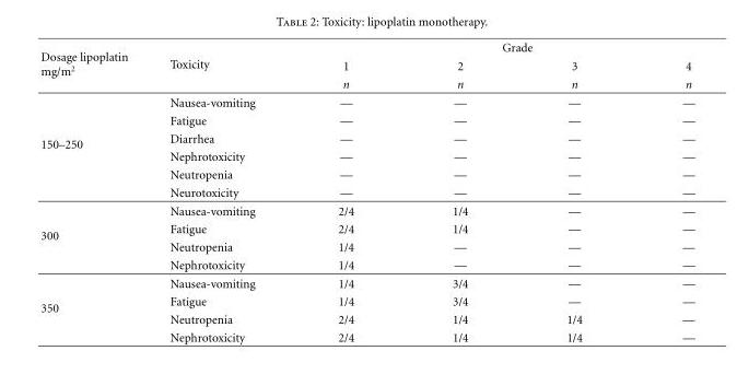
<table><thead><tr><td rowspan="3">Dosage lipoplatin mg/m<sup>2</sup></td><td rowspan="3">Toxicity</td><td colspan="4">Grade</td></tr><tr><td rowspan="2">1 n</td><td rowspan="2">2 n</td><td rowspan="2">3 n</td><td rowspan="2">4 n</td></tr><tr></tr></thead><tbody><tr><td rowspan="6">150–250</td><td>Nausea-vomiting</td><td>—</td><td>—</td><td>—</td><td>—</td></tr><tr><td>Fatigue</td><td>—</td><td>—</td><td>—</td><td>—</td></tr><tr><td>Diarrhea</td><td>—</td><td>—</td><td>—</td><td>—</td></tr><tr><td>Nephrotoxicity</td><td>—</td><td>—</td><td>—</td><td>—</td></tr><tr><td>Neutropenia</td><td>—</td><td>—</td><td>—</td><td>—</td></tr><tr><td>Neurotoxicity</td><td>—</td><td>—</td><td>—</td><td>—</td></tr><tr><td rowspan="4">300</td><td>Nausea-vomiting</td><td>2/4</td><td>1/4</td><td>—</td><td>—</td></tr><tr><td>Fatigue</td><td>2/4</td><td>1/4</td><td>—</td><td>—</td></tr><tr><td>Neutropenia</td><td>1/4</td><td>—</td><td>—</td><td>—</td></tr><tr><td>Nephrotoxicity</td><td>1/4</td><td>—</td><td>—</td><td>—</td></tr><tr><td rowspan="4">350</td><td>Nausea-vomiting</td><td>1/4</td><td>3/4</td><td>—</td><td>—</td></tr><tr><td>Fatigue</td><td>1/4</td><td>3/4</td><td>—</td><td>—</td></tr><tr><td>Neutropenia</td><td>2/4</td><td>1/4</td><td>1/4</td><td>—</td></tr><tr><td>Nephrotoxicity</td><td>2/4</td><td>1/4</td><td>1/4</td><td>—</td></tr></tbody></table>